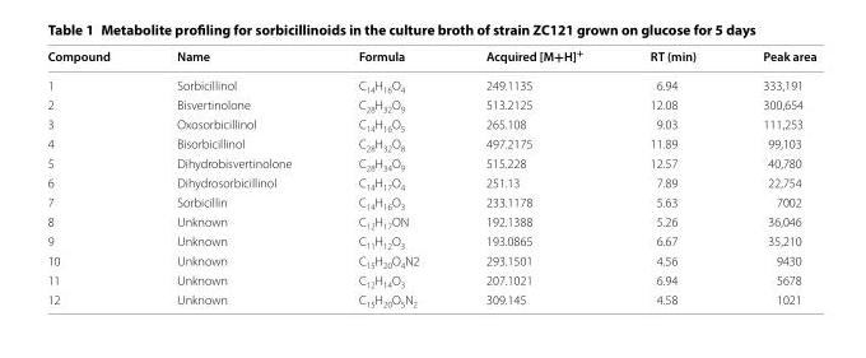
<table><thead><tr><td>Compound</td><td>Name</td><td>Formula</td><td>Acquired [M+H]<sup>+</sup></td><td>RT (min)</td><td>Peak area</td></tr></thead><tbody><tr><td>1</td><td>Sorbicillinol</td><td>C<sub>14</sub>H<sub>16</sub>O<sub>4</sub></td><td>249.1135</td><td>6.94</td><td>333,191</td></tr><tr><td>2</td><td>Bisvertinolone</td><td>C<sub>28</sub>H<sub>32</sub>O<sub>9</sub></td><td>513.2125</td><td>12.08</td><td>300,654</td></tr><tr><td>3</td><td>Oxosorbicillinol</td><td>C<sub>14</sub>H<sub>16</sub>O<sub>5</sub></td><td>265.108</td><td>9.03</td><td>111,253</td></tr><tr><td>4</td><td>Bisorbicillinol</td><td>C<sub>28</sub>H<sub>32</sub>O<sub>8</sub></td><td>497.2175</td><td>11.89</td><td>99,103</td></tr><tr><td>5</td><td>Dihydrobisvertinolone</td><td>C<sub>28</sub>H<sub>34</sub>O<sub>9</sub></td><td>515.228</td><td>12.57</td><td>40,780</td></tr><tr><td>6</td><td>Dihydrosorbicillinol</td><td>C<sub>14</sub>H<sub>17</sub>O<sub>4</sub></td><td>251.13</td><td>7.89</td><td>22,754</td></tr><tr><td>7</td><td>Sorbicillin</td><td>C<sub>14</sub>H<sub>16</sub>O<sub>3</sub></td><td>233.1178</td><td>5.63</td><td>7002</td></tr><tr><td>8</td><td>Unknown</td><td>C<sub>12</sub>H<sub>17</sub>ON</td><td>192.1388</td><td>5.26</td><td>36,046</td></tr><tr><td>9</td><td>Unknown</td><td>C<sub>11</sub>H<sub>12</sub>O<sub>3</sub></td><td>193.0865</td><td>6.67</td><td>35,210</td></tr><tr><td>10</td><td>Unknown</td><td>C<sub>15</sub>H<sub>20</sub>O<sub>4</sub>N2</td><td>293.1501</td><td>4.56</td><td>9430</td></tr><tr><td>11</td><td>Unknown</td><td>C<sub>12</sub>H<sub>14</sub>O<sub>3</sub></td><td>207.1021</td><td>6.94</td><td>5678</td></tr><tr><td>12</td><td>Unknown</td><td>C<sub>15</sub>H<sub>20</sub>O<sub>5</sub>N<sub>2</sub></td><td>309.145</td><td>4.58</td><td>1021</td></tr></tbody></table>